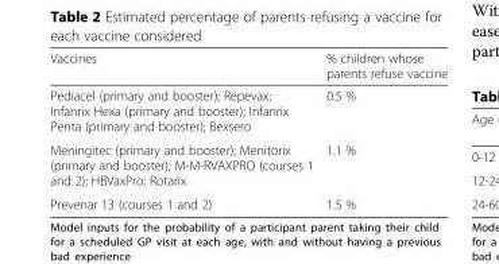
<table><thead><tr><td>Vaccines</td><td>% children whose parents refuse vaccine</td></tr></thead><tbody><tr><td>Pediacel (primary and booster); Repevax; Infanrix Hexa (primary and booster); Infanrix Penta (primary and booster); Bexsero</td><td>0.5 %</td></tr><tr><td>Meningitec (primary and booster); Menitorix (primary and booster); M-M-RVAXPRO (courses 1 and 2); HBVaxPro; Rotarix</td><td>1.1 %</td></tr><tr><td>Prevenar 13 (courses 1 and 2)</td><td>1.5 %</td></tr></tbody></table>